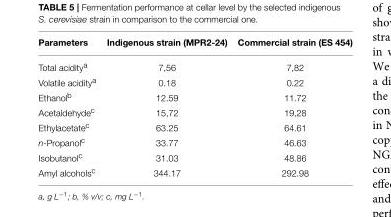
<table><thead><tr><td>Parameters</td><td>Indigenous strain (MPR2-24)</td><td>Commercial strain (ES 454)</td></tr></thead><tbody><tr><td>Total acidity<sup>a</sup></td><td>7,56</td><td>7,82</td></tr><tr><td>Volatile acidity<sup>a</sup></td><td>0.18</td><td>0.22</td></tr><tr><td>Ethanol<sup>b</sup></td><td>12.59</td><td>11.72</td></tr><tr><td>Acetaldehyde<sup>c</sup></td><td>15,72</td><td>19,28</td></tr><tr><td>Ethylacetate<sup>c</sup></td><td>63.25</td><td>64.61</td></tr><tr><td>n-Propanol<sup>c</sup></td><td>33.77</td><td>46.63</td></tr><tr><td>Isobutanol<sup>c</sup></td><td>31.03</td><td>48.86</td></tr><tr><td>Amyl alcohols<sup>c</sup></td><td>344.17</td><td>292.98</td></tr></tbody></table>